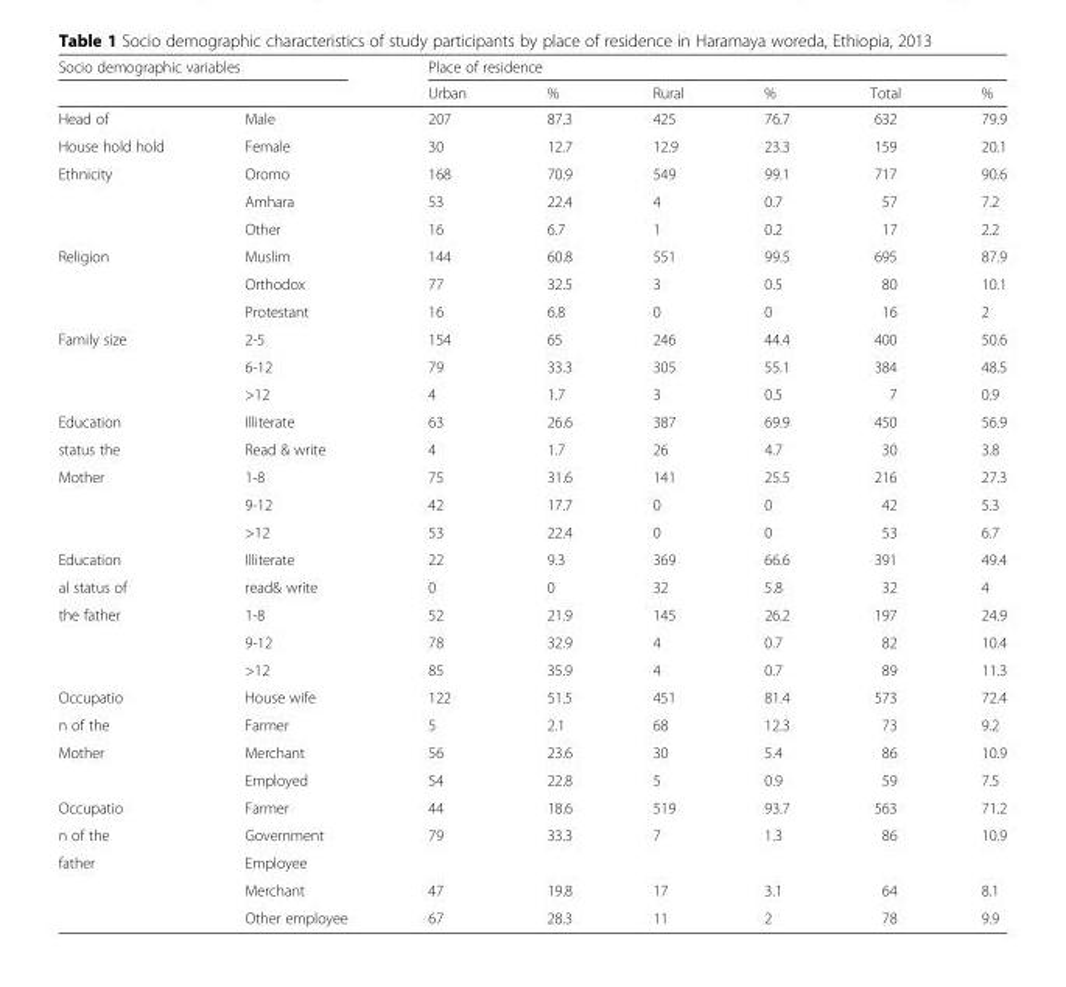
<table><thead><tr><td colspan="2">Socio demographic variables</td><td colspan="6">Place of residence</td></tr><tr><td></td><td></td><td>Urban</td><td>%</td><td>Rural</td><td>%</td><td>Total</td><td>%</td></tr></thead><tbody><tr><td>Head of</td><td>Male</td><td>207</td><td>87.3</td><td>425</td><td>76.7</td><td>632</td><td>79.9</td></tr><tr><td>House hold hold</td><td>Female</td><td>30</td><td>12.7</td><td>12.9</td><td>23.3</td><td>159</td><td>20.1</td></tr><tr><td rowspan="3">Ethnicity</td><td>Oromo</td><td>168</td><td>70.9</td><td>549</td><td>99.1</td><td>717</td><td>90.6</td></tr><tr><td>Amhara</td><td>53</td><td>22.4</td><td>4</td><td>0.7</td><td>57</td><td>7.2</td></tr><tr><td>Other</td><td>16</td><td>6.7</td><td>1</td><td>0.2</td><td>17</td><td>2.2</td></tr><tr><td rowspan="3">Religion</td><td>Muslim</td><td>144</td><td>60.8</td><td>551</td><td>99.5</td><td>695</td><td>87.9</td></tr><tr><td>Orthodox</td><td>77</td><td>32.5</td><td>3</td><td>0.5</td><td>80</td><td>10.1</td></tr><tr><td>Protestant</td><td>16</td><td>6.8</td><td>0</td><td>0</td><td>16</td><td>2</td></tr><tr><td rowspan="3">Family size</td><td>2-5</td><td>154</td><td>65</td><td>246</td><td>44.4</td><td>400</td><td>50.6</td></tr><tr><td>6-12</td><td>79</td><td>33.3</td><td>305</td><td>55.1</td><td>384</td><td>48.5</td></tr><tr><td>&gt;12</td><td>4</td><td>1.7</td><td>3</td><td>0.5</td><td>7</td><td>0.9</td></tr><tr><td>Education</td><td>Illiterate</td><td>63</td><td>26.6</td><td>387</td><td>69.9</td><td>450</td><td>56.9</td></tr><tr><td>status the</td><td>Read &amp; write</td><td>4</td><td>1.7</td><td>26</td><td>4.7</td><td>30</td><td>3.8</td></tr><tr><td rowspan="3">Mother</td><td>1-8</td><td>75</td><td>31.6</td><td>141</td><td>25.5</td><td>216</td><td>27.3</td></tr><tr><td>9-12</td><td>42</td><td>17.7</td><td>0</td><td>0</td><td>42</td><td>5.3</td></tr><tr><td>&gt;12</td><td>53</td><td>22.4</td><td>0</td><td>0</td><td>53</td><td>6.7</td></tr><tr><td>Education</td><td>Illiterate</td><td>22</td><td>9.3</td><td>369</td><td>66.6</td><td>391</td><td>49.4</td></tr><tr><td>al status of</td><td>read&amp; write</td><td>0</td><td>0</td><td>32</td><td>5.8</td><td>32</td><td>4</td></tr><tr><td rowspan="3">the father</td><td>1-8</td><td>52</td><td>21.9</td><td>145</td><td>26.2</td><td>197</td><td>24.9</td></tr><tr><td>9-12</td><td>78</td><td>32.9</td><td>4</td><td>0.7</td><td>82</td><td>10.4</td></tr><tr><td>&gt;12</td><td>85</td><td>35.9</td><td>4</td><td>0.7</td><td>89</td><td>11.3</td></tr><tr><td>Occupatio</td><td>House wife</td><td>122</td><td>51.5</td><td>451</td><td>81.4</td><td>573</td><td>72.4</td></tr><tr><td>n of the</td><td>Farmer</td><td>5</td><td>2.1</td><td>68</td><td>12.3</td><td>73</td><td>9.2</td></tr><tr><td rowspan="2">Mother</td><td>Merchant</td><td>56</td><td>23.6</td><td>30</td><td>5.4</td><td>86</td><td>10.9</td></tr><tr><td>Employed</td><td>54</td><td>22.8</td><td>5</td><td>0.9</td><td>59</td><td>7.5</td></tr><tr><td>Occupatio</td><td>Farmer</td><td>44</td><td>18.6</td><td>519</td><td>93.7</td><td>563</td><td>71.2</td></tr><tr><td>n of the</td><td>Government</td><td>79</td><td>33.3</td><td>7</td><td>1.3</td><td>86</td><td>10.9</td></tr><tr><td rowspan="3">father</td><td>Employee</td><td></td><td></td><td></td><td></td><td></td><td></td></tr><tr><td>Merchant</td><td>47</td><td>19.8</td><td>17</td><td>3.1</td><td>64</td><td>8.1</td></tr><tr><td>Other employee</td><td>67</td><td>28.3</td><td>11</td><td>2</td><td>78</td><td>9.9</td></tr></tbody></table>